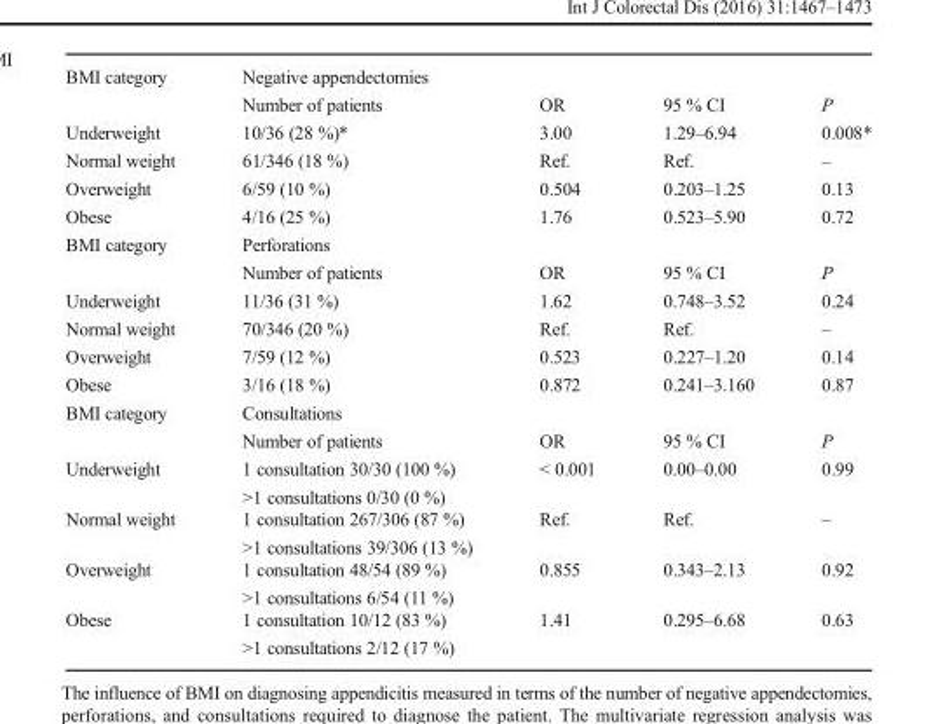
<table><tbody><tr><td rowspan="2">BMI category</td><td colspan="4">Negative appendectomies</td></tr><tr><td>Number of patients</td><td>OR</td><td>95 % CI</td><td>P</td></tr><tr><td>Underweight</td><td>10/36 (28 %)*</td><td>3.00</td><td>1.29–6.94</td><td>0.008*</td></tr><tr><td>Normal weight</td><td>61/346 (18 %)</td><td>Ref.</td><td>Ref.</td><td>–</td></tr><tr><td>Overweight</td><td>6/59 (10 %)</td><td>0.504</td><td>0.203–1.25</td><td>0.13</td></tr><tr><td>Obese</td><td>4/16 (25 %)</td><td>1.76</td><td>0.523–5.90</td><td>0.72</td></tr><tr><td rowspan="2">BMI category</td><td colspan="4">Perforations</td></tr><tr><td>Number of patients</td><td>OR</td><td>95 % CI</td><td>P</td></tr><tr><td>Underweight</td><td>11/36 (31 %)</td><td>1.62</td><td>0.748–3.52</td><td>0.24</td></tr><tr><td>Normal weight</td><td>70/346 (20 %)</td><td>Ref.</td><td>Ref.</td><td>–</td></tr><tr><td>Overweight</td><td>7/59 (12 %)</td><td>0.523</td><td>0.227–1.20</td><td>0.14</td></tr><tr><td>Obese</td><td>3/16 (18 %)</td><td>0.872</td><td>0.241–3.160</td><td>0.87</td></tr><tr><td rowspan="2">BMI category</td><td colspan="4">Consultations</td></tr><tr><td>Number of patients</td><td>OR</td><td>95 % CI</td><td>P</td></tr><tr><td>Underweight</td><td>1 consultation 30/30 (100 %) &gt;1 consultations 0/30 (0 %)</td><td>&lt; 0.001</td><td>0.00–0.00</td><td>0.99</td></tr><tr><td>Normal weight</td><td>1 consultation 267/306 (87 %) &gt;1 consultations 39/306 (13 %)</td><td>Ref.</td><td>Ref.</td><td>–</td></tr><tr><td>Overweight</td><td>1 consultation 48/54 (89 %) &gt;1 consultations 6/54 (11 %)</td><td>0.855</td><td>0.343–2.13</td><td>0.92</td></tr><tr><td>Obese</td><td>1 consultation 10/12 (83 %) &gt;1 consultations 2/12 (17 %)</td><td>1.41</td><td>0.295–6.68</td><td>0.63</td></tr></tbody></table>